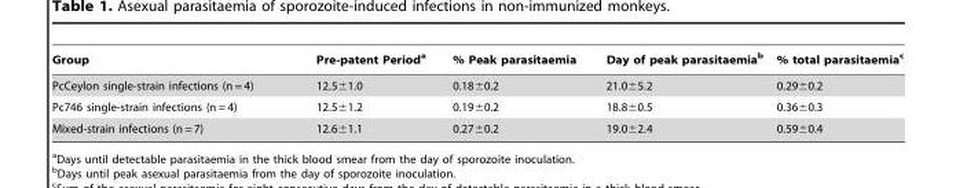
<table><thead><tr><td>Group</td><td>Pre-patent Period<sup>a</sup></td><td>% Peak parasitaemia</td><td>Day of peak parasitaemia<sup>b</sup></td><td>% total parasitaemia<sup>c</sup></td></tr></thead><tbody><tr><td>PcCeylon single-strain infections (n = 4)</td><td>12.5±1.0</td><td>0.18±0.2</td><td>21.0±5.2</td><td>0.29±0.2</td></tr><tr><td>Pc746 single-strain infections (n = 4)</td><td>12.5±1.2</td><td>0.19±0.2</td><td>18.8±0.5</td><td>0.36±0.3</td></tr><tr><td>Mixed-strain infections (n = 7)</td><td>12.6±1.1</td><td>0.27±0.2</td><td>19.0±2.4</td><td>0.59±0.4</td></tr></tbody></table>